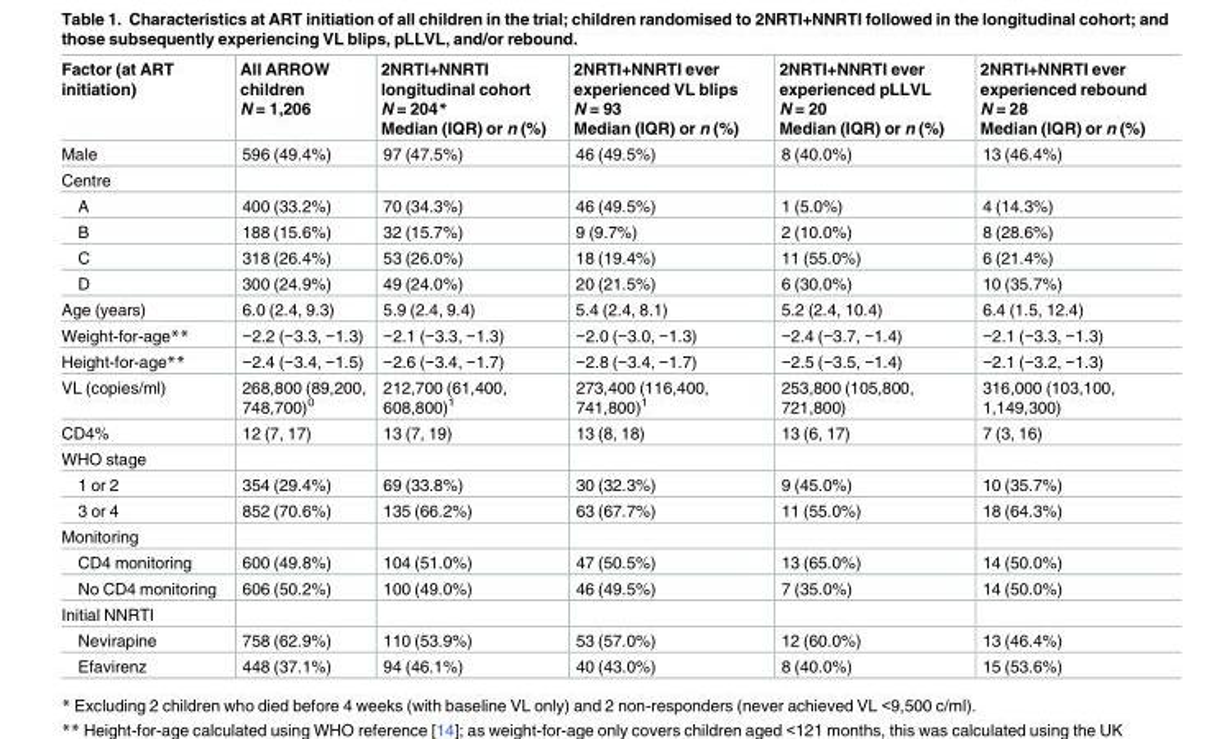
<table><thead><tr><td>Factor (at ART initiation)</td><td>All ARROW children N = 1,206</td><td>2NRTI+NNRTI longitudinal cohort N = 204* Median (IQR) or n (%)</td><td>2NRTI+NNRTI ever experienced VL blips N = 93 Median (IQR) or n (%)</td><td>2NRTI+NNRTI ever experienced pLLVL N = 20 Median (IQR) or n (%)</td><td>2NRTI+NNRTI ever experienced rebound N = 28 Median (IQR) or n (%)</td></tr></thead><tbody><tr><td>Male</td><td>596 (49.4%)</td><td>97 (47.5%)</td><td>46 (49.5%)</td><td>8 (40.0%)</td><td>13 (46.4%)</td></tr><tr><td colspan="6">Centre</td></tr><tr><td>A</td><td>400 (33.2%)</td><td>70 (34.3%)</td><td>46 (49.5%)</td><td>1 (5.0%)</td><td>4 (14.3%)</td></tr><tr><td>B</td><td>188 (15.6%)</td><td>32 (15.7%)</td><td>9 (9.7%)</td><td>2 (10.0%)</td><td>8 (28.6%)</td></tr><tr><td>C</td><td>318 (26.4%)</td><td>53 (26.0%)</td><td>18 (19.4%)</td><td>11 (55.0%)</td><td>6 (21.4%)</td></tr><tr><td>D</td><td>300 (24.9%)</td><td>49 (24.0%)</td><td>20 (21.5%)</td><td>6 (30.0%)</td><td>10 (35.7%)</td></tr><tr><td>Age (years)</td><td>6.0 (2.4, 9.3)</td><td>5.9 (2.4, 9.4)</td><td>5.4 (2.4, 8.1)</td><td>5.2 (2.4, 10.4)</td><td>6.4 (1.5, 12.4)</td></tr><tr><td>Weight-for-age**</td><td>−2.2 (−3.3, −1.3)</td><td>−2.1 (−3.3, −1.3)</td><td>−2.0 (−3.0, −1.3)</td><td>−2.4 (−3.7, −1.4)</td><td>−2.1 (−3.3, −1.3)</td></tr><tr><td>Height-for-age**</td><td>−2.4 (−3.4, −1.5)</td><td>−2.6 (−3.4, −1.7)</td><td>−2.8 (−3.4, −1.7)</td><td>−2.5 (−3.5, −1.4)</td><td>−2.1 (−3.2, −1.3)</td></tr><tr><td>VL (copies/ml)</td><td>268,800 (89,200, 748,700)<sup>0</sup></td><td>212,700 (61,400, 608,800)<sup>1</sup></td><td>273,400 (116,400, 741,800)<sup>1</sup></td><td>253,800 (105,800, 721,800)</td><td>316,000 (103,100, 1,149,300)</td></tr><tr><td>CD4%</td><td>12 (7, 17)</td><td>13 (7, 19)</td><td>13 (8, 18)</td><td>13 (6, 17)</td><td>7 (3, 16)</td></tr><tr><td colspan="6">WHO stage</td></tr><tr><td>1 or 2</td><td>354 (29.4%)</td><td>69 (33.8%)</td><td>30 (32.3%)</td><td>9 (45.0%)</td><td>10 (35.7%)</td></tr><tr><td>3 or 4</td><td>852 (70.6%)</td><td>135 (66.2%)</td><td>63 (67.7%)</td><td>11 (55.0%)</td><td>18 (64.3%)</td></tr><tr><td colspan="6">Monitoring</td></tr><tr><td>CD4 monitoring</td><td>600 (49.8%)</td><td>104 (51.0%)</td><td>47 (50.5%)</td><td>13 (65.0%)</td><td>14 (50.0%)</td></tr><tr><td>No CD4 monitoring</td><td>606 (50.2%)</td><td>100 (49.0%)</td><td>46 (49.5%)</td><td>7 (35.0%)</td><td>14 (50.0%)</td></tr><tr><td colspan="6">Initial NNRTI</td></tr><tr><td>Nevirapine</td><td>758 (62.9%)</td><td>110 (53.9%)</td><td>53 (57.0%)</td><td>12 (60.0%)</td><td>13 (46.4%)</td></tr><tr><td>Efavirenz</td><td>448 (37.1%)</td><td>94 (46.1%)</td><td>40 (43.0%)</td><td>8 (40.0%)</td><td>15 (53.6%)</td></tr></tbody></table>